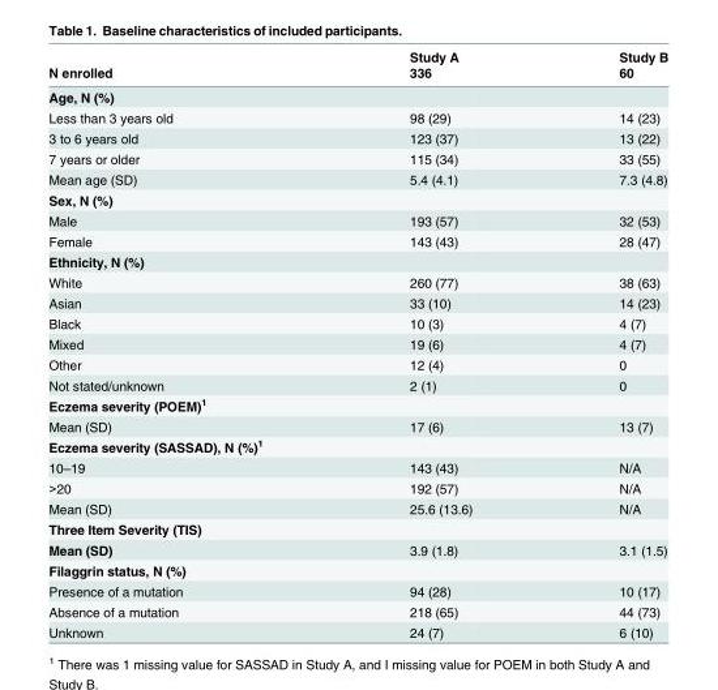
<table><thead><tr><td rowspan="2">N enrolled</td><td rowspan="2">Study A 336</td><td rowspan="2">Study B 60</td></tr><tr></tr></thead><tbody><tr><td colspan="3">Age, N (%)</td></tr><tr><td>Less than 3 years old</td><td>98 (29)</td><td>14 (23)</td></tr><tr><td>3 to 6 years old</td><td>123 (37)</td><td>13 (22)</td></tr><tr><td>7 years or older</td><td>115 (34)</td><td>33 (55)</td></tr><tr><td>Mean age (SD)</td><td>5.4 (4.1)</td><td>7.3 (4.8)</td></tr><tr><td colspan="3">Sex, N (%)</td></tr><tr><td>Male</td><td>193 (57)</td><td>32 (53)</td></tr><tr><td>Female</td><td>143 (43)</td><td>28 (47)</td></tr><tr><td colspan="3">Ethnicity, N (%)</td></tr><tr><td>White</td><td>260 (77)</td><td>38 (63)</td></tr><tr><td>Asian</td><td>33 (10)</td><td>14 (23)</td></tr><tr><td>Black</td><td>10 (3)</td><td>4 (7)</td></tr><tr><td>Mixed</td><td>19 (6)</td><td>4 (7)</td></tr><tr><td>Other</td><td>12 (4)</td><td>0</td></tr><tr><td>Not stated/unknown</td><td>2 (1)</td><td>0</td></tr><tr><td colspan="3">Eczema severity (POEM)<sup>1</sup></td></tr><tr><td>Mean (SD)</td><td>17 (6)</td><td>13 (7)</td></tr><tr><td colspan="3">Eczema severity (SASSAD), N (%)<sup>1</sup></td></tr><tr><td>10–19</td><td>143 (43)</td><td>N/A</td></tr><tr><td>&gt;20</td><td>192 (57)</td><td>N/A</td></tr><tr><td>Mean (SD)</td><td>25.6 (13.6)</td><td>N/A</td></tr><tr><td colspan="3">Three Item Severity (TIS)</td></tr><tr><td>Mean (SD)</td><td>3.9 (1.8)</td><td>3.1 (1.5)</td></tr><tr><td colspan="3">Filaggrin status, N (%)</td></tr><tr><td>Presence of a mutation</td><td>94 (28)</td><td>10 (17)</td></tr><tr><td>Absence of a mutation</td><td>218 (65)</td><td>44 (73)</td></tr><tr><td>Unknown</td><td>24 (7)</td><td>6 (10)</td></tr></tbody></table>